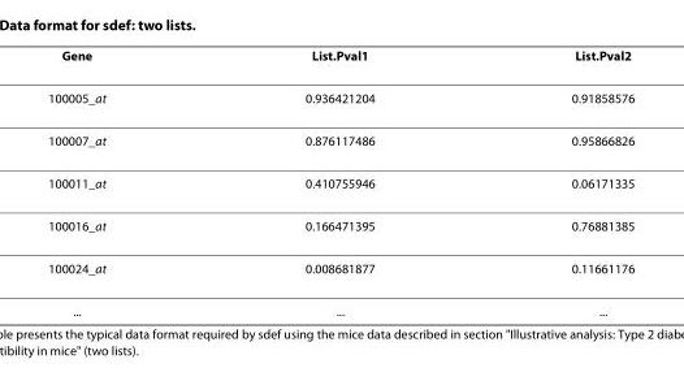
<table><thead><tr><td>Gene</td><td>List.Pval1</td><td>List.Pval2</td></tr></thead><tbody><tr><td>100005_at</td><td>0.936421204</td><td>0.91858576</td></tr><tr><td>100007_at</td><td>0.876117486</td><td>0.95866826</td></tr><tr><td>100011_at</td><td>0.410755946</td><td>0.06171335</td></tr><tr><td>100016_at</td><td>0.166471395</td><td>0.76881385</td></tr><tr><td>100024_at</td><td>0.008681877</td><td>0.11661176</td></tr><tr><td>...</td><td>...</td><td>...</td></tr></tbody></table>